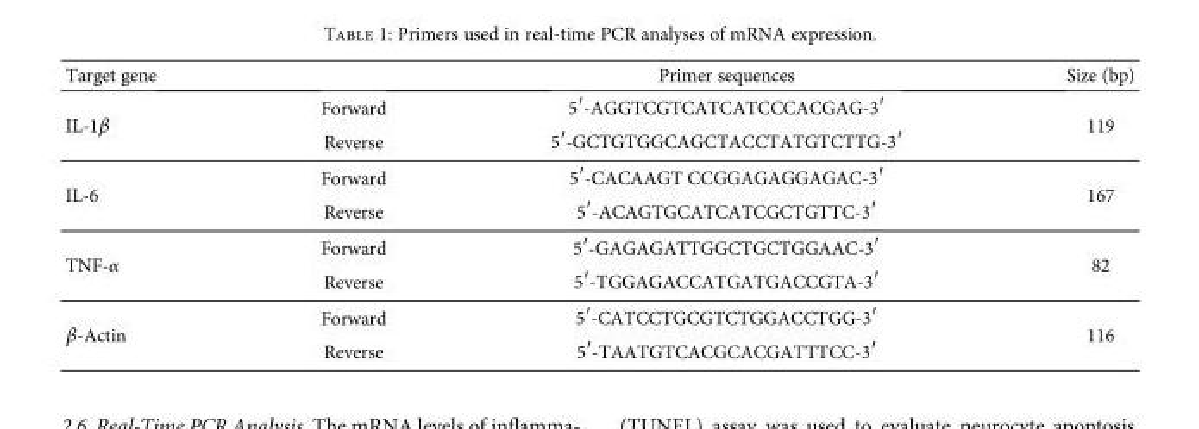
<table><thead><tr><td>Target gene</td><td></td><td>Primer sequences</td><td>Size (bp)</td></tr></thead><tbody><tr><td rowspan="2">IL-1β</td><td>Forward</td><td>5′-AGGTCGTCATCATCCCACGAG-3′</td><td rowspan="2">119</td></tr><tr><td>Reverse</td><td>5′-GCTGTGGCAGCTACCTATGTCTTG-3′</td></tr><tr><td rowspan="2">IL-6</td><td>Forward</td><td>5′-CACAAGT CCGGAGAGGAGAC-3′</td><td rowspan="2">167</td></tr><tr><td>Reverse</td><td>5′-ACAGTGCATCATCGCTGTTC-3′</td></tr><tr><td rowspan="2">TNF-α</td><td>Forward</td><td>5′-GAGAGATTGGCTGCTGGAAC-3′</td><td rowspan="2">82</td></tr><tr><td>Reverse</td><td>5′-TGGAGACCATGATGACCGTA-3′</td></tr><tr><td rowspan="2">β-Actin</td><td>Forward</td><td>5′-CATCCTGCGTCTGGACCTGG-3′</td><td rowspan="2">116</td></tr><tr><td>Reverse</td><td>5′-TAATGTCACGCACGATTTCC-3′</td></tr></tbody></table>